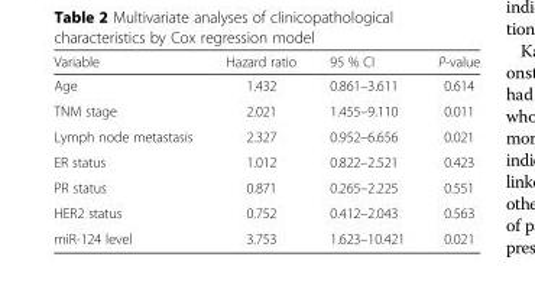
<table><thead><tr><td>Variable</td><td>Hazard ratio</td><td>95 % CI</td><td>P-value</td></tr></thead><tbody><tr><td>Age</td><td>1.432</td><td>0.861–3.611</td><td>0.614</td></tr><tr><td>TNM stage</td><td>2.021</td><td>1.455–9.110</td><td>0.011</td></tr><tr><td>Lymph node metastasis</td><td>2.327</td><td>0.952–6.656</td><td>0.021</td></tr><tr><td>ER status</td><td>1.012</td><td>0.822–2.521</td><td>0.423</td></tr><tr><td>PR status</td><td>0.871</td><td>0.265–2.225</td><td>0.551</td></tr><tr><td>HER2 status</td><td>0.752</td><td>0.412–2.043</td><td>0.563</td></tr><tr><td>miR-124 level</td><td>3.753</td><td>1.623–10.421</td><td>0.021</td></tr></tbody></table>